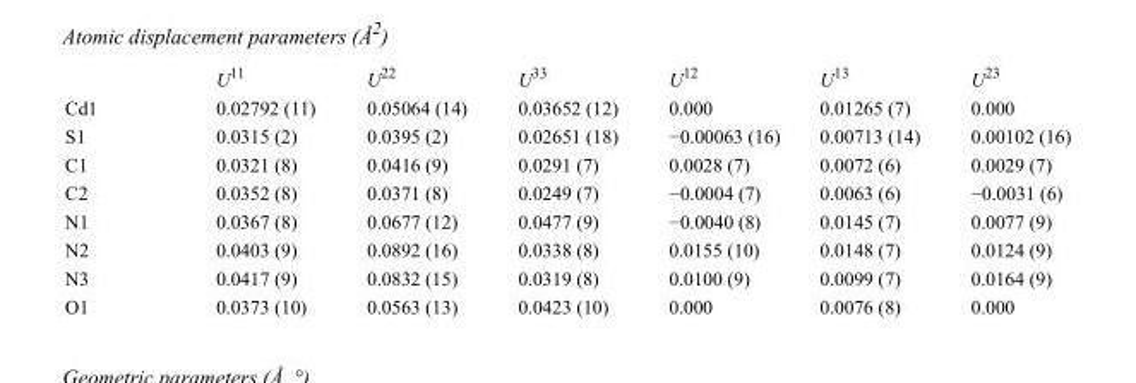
<table><thead><tr><td></td><td>U<sup>11</sup></td><td>U<sup>22</sup></td><td>U<sup>33</sup></td><td>U<sup>12</sup></td><td>U<sup>13</sup></td><td>U<sup>23</sup></td></tr></thead><tbody><tr><td>Cd1</td><td>0.02792 (11)</td><td>0.05064 (14)</td><td>0.03652 (12)</td><td>0.000</td><td>0.01265 (7)</td><td>0.000</td></tr><tr><td>S1</td><td>0.0315 (2)</td><td>0.0395 (2)</td><td>0.02651 (18)</td><td>−0.00063 (16)</td><td>0.00713 (14)</td><td>0.00102 (16)</td></tr><tr><td>C1</td><td>0.0321 (8)</td><td>0.0416 (9)</td><td>0.0291 (7)</td><td>0.0028 (7)</td><td>0.0072 (6)</td><td>0.0029 (7)</td></tr><tr><td>C2</td><td>0.0352 (8)</td><td>0.0371 (8)</td><td>0.0249 (7)</td><td>−0.0004 (7)</td><td>0.0063 (6)</td><td>−0.0031 (6)</td></tr><tr><td>N1</td><td>0.0367 (8)</td><td>0.0677 (12)</td><td>0.0477 (9)</td><td>−0.0040 (8)</td><td>0.0145 (7)</td><td>0.0077 (9)</td></tr><tr><td>N2</td><td>0.0403 (9)</td><td>0.0892 (16)</td><td>0.0338 (8)</td><td>0.0155 (10)</td><td>0.0148 (7)</td><td>0.0124 (9)</td></tr><tr><td>N3</td><td>0.0417 (9)</td><td>0.0832 (15)</td><td>0.0319 (8)</td><td>0.0100 (9)</td><td>0.0099 (7)</td><td>0.0164 (9)</td></tr><tr><td>O1</td><td>0.0373 (10)</td><td>0.0563 (13)</td><td>0.0423 (10)</td><td>0.000</td><td>0.0076 (8)</td><td>0.000</td></tr></tbody></table>